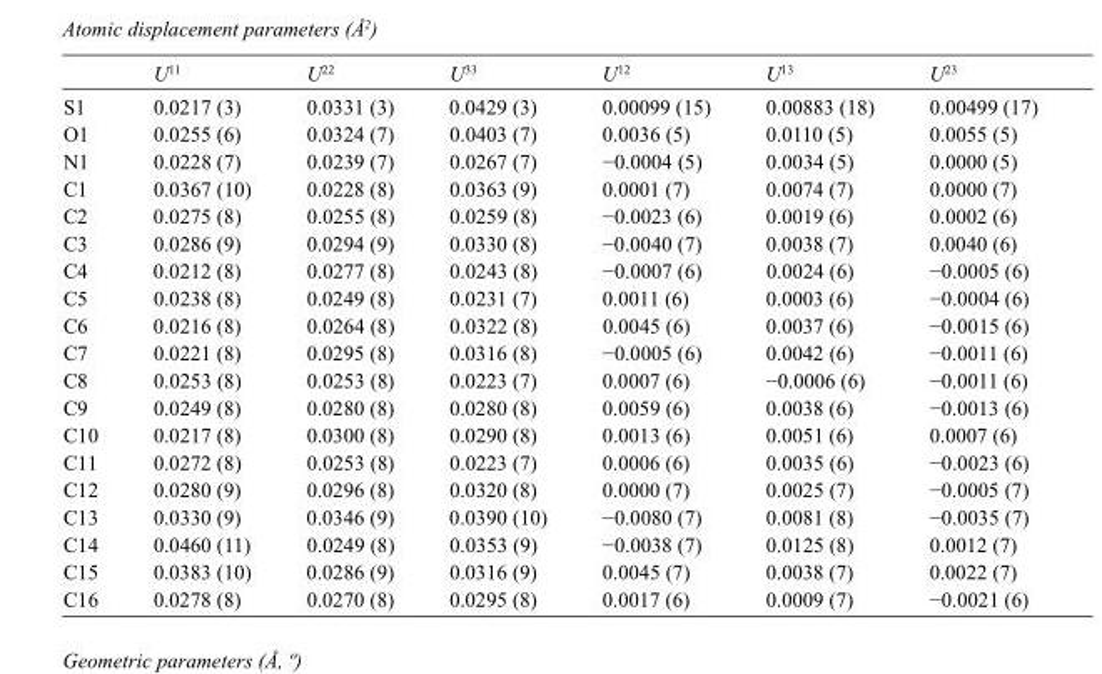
<table><thead><tr><td></td><td>U<sup>11</sup></td><td>U<sup>22</sup></td><td>U<sup>33</sup></td><td>U<sup>12</sup></td><td>U<sup>13</sup></td><td>U<sup>23</sup></td></tr></thead><tbody><tr><td>S1</td><td>0.0217 (3)</td><td>0.0331 (3)</td><td>0.0429 (3)</td><td>0.00099 (15)</td><td>0.00883 (18)</td><td>0.00499 (17)</td></tr><tr><td>O1</td><td>0.0255 (6)</td><td>0.0324 (7)</td><td>0.0403 (7)</td><td>0.0036 (5)</td><td>0.0110 (5)</td><td>0.0055 (5)</td></tr><tr><td>N1</td><td>0.0228 (7)</td><td>0.0239 (7)</td><td>0.0267 (7)</td><td>−0.0004 (5)</td><td>0.0034 (5)</td><td>0.0000 (5)</td></tr><tr><td>C1</td><td>0.0367 (10)</td><td>0.0228 (8)</td><td>0.0363 (9)</td><td>0.0001 (7)</td><td>0.0074 (7)</td><td>0.0000 (7)</td></tr><tr><td>C2</td><td>0.0275 (8)</td><td>0.0255 (8)</td><td>0.0259 (8)</td><td>−0.0023 (6)</td><td>0.0019 (6)</td><td>0.0002 (6)</td></tr><tr><td>C3</td><td>0.0286 (9)</td><td>0.0294 (9)</td><td>0.0330 (8)</td><td>−0.0040 (7)</td><td>0.0038 (7)</td><td>0.0040 (6)</td></tr><tr><td>C4</td><td>0.0212 (8)</td><td>0.0277 (8)</td><td>0.0243 (8)</td><td>−0.0007 (6)</td><td>0.0024 (6)</td><td>−0.0005 (6)</td></tr><tr><td>C5</td><td>0.0238 (8)</td><td>0.0249 (8)</td><td>0.0231 (7)</td><td>0.0011 (6)</td><td>0.0003 (6)</td><td>−0.0004 (6)</td></tr><tr><td>C6</td><td>0.0216 (8)</td><td>0.0264 (8)</td><td>0.0322 (8)</td><td>0.0045 (6)</td><td>0.0037 (6)</td><td>−0.0015 (6)</td></tr><tr><td>C7</td><td>0.0221 (8)</td><td>0.0295 (8)</td><td>0.0316 (8)</td><td>−0.0005 (6)</td><td>0.0042 (6)</td><td>−0.0011 (6)</td></tr><tr><td>C8</td><td>0.0253 (8)</td><td>0.0253 (8)</td><td>0.0223 (7)</td><td>0.0007 (6)</td><td>−0.0006 (6)</td><td>−0.0011 (6)</td></tr><tr><td>C9</td><td>0.0249 (8)</td><td>0.0280 (8)</td><td>0.0280 (8)</td><td>0.0059 (6)</td><td>0.0038 (6)</td><td>−0.0013 (6)</td></tr><tr><td>C10</td><td>0.0217 (8)</td><td>0.0300 (8)</td><td>0.0290 (8)</td><td>0.0013 (6)</td><td>0.0051 (6)</td><td>0.0007 (6)</td></tr><tr><td>C11</td><td>0.0272 (8)</td><td>0.0253 (8)</td><td>0.0223 (7)</td><td>0.0006 (6)</td><td>0.0035 (6)</td><td>−0.0023 (6)</td></tr><tr><td>C12</td><td>0.0280 (9)</td><td>0.0296 (8)</td><td>0.0320 (8)</td><td>0.0000 (7)</td><td>0.0025 (7)</td><td>−0.0005 (7)</td></tr><tr><td>C13</td><td>0.0330 (9)</td><td>0.0346 (9)</td><td>0.0390 (10)</td><td>−0.0080 (7)</td><td>0.0081 (8)</td><td>−0.0035 (7)</td></tr><tr><td>C14</td><td>0.0460 (11)</td><td>0.0249 (8)</td><td>0.0353 (9)</td><td>−0.0038 (7)</td><td>0.0125 (8)</td><td>0.0012 (7)</td></tr><tr><td>C15</td><td>0.0383 (10)</td><td>0.0286 (9)</td><td>0.0316 (9)</td><td>0.0045 (7)</td><td>0.0038 (7)</td><td>0.0022 (7)</td></tr><tr><td>C16</td><td>0.0278 (8)</td><td>0.0270 (8)</td><td>0.0295 (8)</td><td>0.0017 (6)</td><td>0.0009 (7)</td><td>−0.0021 (6)</td></tr></tbody></table>